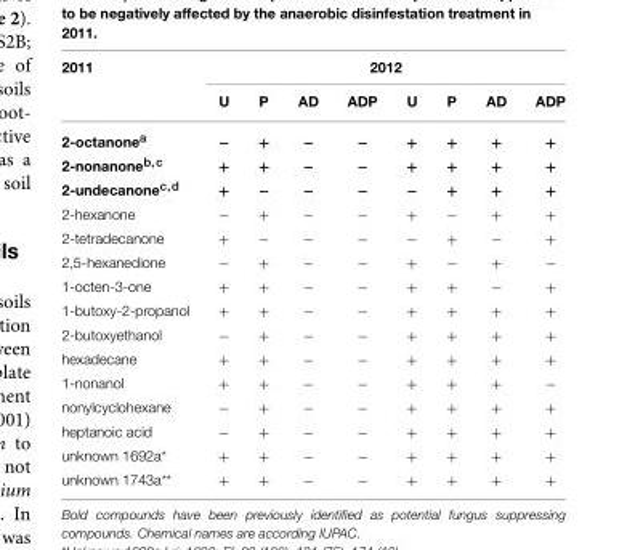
<table><thead><tr><td rowspan="2">2011</td><td colspan="8">2012</td></tr><tr><td>U</td><td>P</td><td>AD</td><td>ADP</td><td>U</td><td>P</td><td>AD</td><td>ADP</td></tr></thead><tbody><tr><td>2-octanone<sup>a</sup></td><td>−</td><td>+</td><td>−</td><td>−</td><td>+</td><td>+</td><td>+</td><td>+</td></tr><tr><td>2-nonanone<sup>b</sup>,<sup>c</sup></td><td>+</td><td>+</td><td>−</td><td>−</td><td>+</td><td>+</td><td>+</td><td>+</td></tr><tr><td>2-undecanone<sup>c</sup>,<sup>d</sup></td><td>+</td><td>−</td><td>−</td><td>−</td><td>−</td><td>+</td><td>+</td><td>+</td></tr><tr><td>2-hexanone</td><td>−</td><td>+</td><td>−</td><td>−</td><td>+</td><td>−</td><td>+</td><td>+</td></tr><tr><td>2-tetradecanone</td><td>+</td><td>−</td><td>−</td><td>−</td><td>−</td><td>+</td><td>−</td><td>+</td></tr><tr><td>2,5-hexanedione</td><td>−</td><td>+</td><td>−</td><td>−</td><td>+</td><td>−</td><td>+</td><td>−</td></tr><tr><td>1-octen-3-one</td><td>+</td><td>+</td><td>−</td><td>−</td><td>+</td><td>+</td><td>−</td><td>+</td></tr><tr><td>1-butoxy-2-propanol</td><td>+</td><td>+</td><td>−</td><td>−</td><td>+</td><td>+</td><td>+</td><td>+</td></tr><tr><td>2-butoxyethanol</td><td>−</td><td>+</td><td>−</td><td>−</td><td>+</td><td>+</td><td>+</td><td>+</td></tr><tr><td>hexadecane</td><td>+</td><td>+</td><td>−</td><td>−</td><td>+</td><td>+</td><td>+</td><td>+</td></tr><tr><td>1-nonanol</td><td>+</td><td>+</td><td>−</td><td>−</td><td>+</td><td>+</td><td>+</td><td>−</td></tr><tr><td>nonylcyclohexane</td><td>−</td><td>+</td><td>−</td><td>−</td><td>+</td><td>+</td><td>+</td><td>+</td></tr><tr><td>heptanoic acid</td><td>−</td><td>+</td><td>−</td><td>−</td><td>+</td><td>+</td><td>+</td><td>+</td></tr><tr><td>unknown 1692a*</td><td>+</td><td>+</td><td>−</td><td>−</td><td>+</td><td>+</td><td>+</td><td>+</td></tr><tr><td>unknown 1743a**</td><td>+</td><td>+</td><td>−</td><td>−</td><td>+</td><td>+</td><td>+</td><td>+</td></tr></tbody></table>